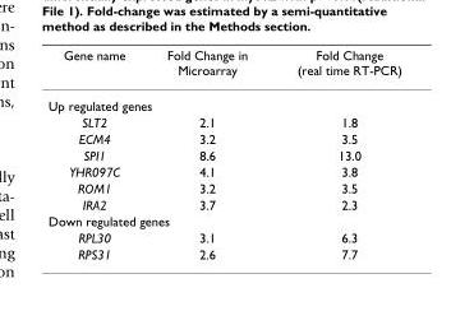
<table><thead><tr><td>Gene name</td><td>Fold Change in Microarray</td><td>Fold Change (real time RT-PCR)</td></tr></thead><tbody><tr><td colspan="3">Up regulated genes</td></tr><tr><td>SLT2</td><td>2.1</td><td>1.8</td></tr><tr><td>ECM4</td><td>3.2</td><td>3.5</td></tr><tr><td>SPI1</td><td>8.6</td><td>13.0</td></tr><tr><td>YHR097C</td><td>4.1</td><td>3.8</td></tr><tr><td>ROM1</td><td>3.2</td><td>3.5</td></tr><tr><td>IRA2</td><td>3.7</td><td>2.3</td></tr><tr><td colspan="3">Down regulated genes</td></tr><tr><td>RPL30</td><td>3.1</td><td>6.3</td></tr><tr><td>RPS31</td><td>2.6</td><td>7.7</td></tr></tbody></table>